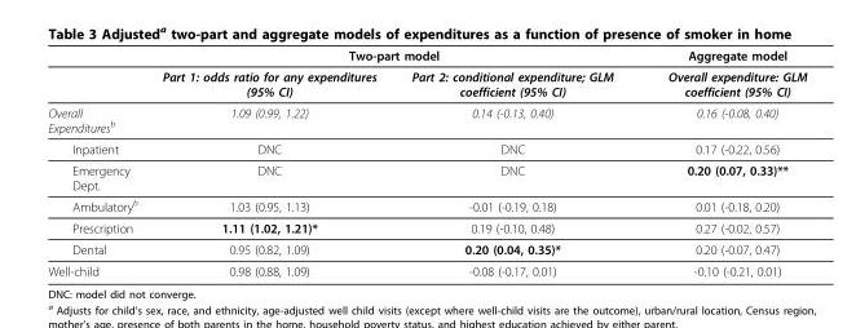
<table><thead><tr><td rowspan="2"></td><td colspan="2">Two-part model</td><td rowspan="2">Aggregate model Overall expenditure: GLM coefficient (95% CI)</td></tr><tr><td>Part 1: odds ratio for any expenditures (95% CI)</td><td>Part 2: conditional expenditure; GLM coefficient (95% CI)</td></tr></thead><tbody><tr><td>Overall Expenditures<sup>b</sup></td><td>1.09 (0.99, 1.22)</td><td>0.14 (-0.13, 0.40)</td><td>0.16 (-0.08, 0.40)</td></tr><tr><td>Inpatient</td><td>DNC</td><td>DNC</td><td>0.17 (-0.22, 0.56)</td></tr><tr><td>Emergency Dept.</td><td>DNC</td><td>DNC</td><td>0.20 (0.07, 0.33)**</td></tr><tr><td>Ambulatory<sup>b</sup></td><td>1.03 (0.95, 1.13)</td><td>-0.01 (-0.19, 0.18)</td><td>0.01 (-0.18, 0.20)</td></tr><tr><td>Prescription</td><td>1.11 (1.02, 1.21)*</td><td>0.19 (-0.10, 0.48)</td><td>0.27 (-0.02, 0.57)</td></tr><tr><td>Dental</td><td>0.95 (0.82, 1.09)</td><td>0.20 (0.04, 0.35)*</td><td>0.20 (-0.07, 0.47)</td></tr><tr><td>Well-child</td><td>0.98 (0.88, 1.09)</td><td>-0.08 (-0.17, 0.01)</td><td>-0.10 (-0.21, 0.01)</td></tr></tbody></table>